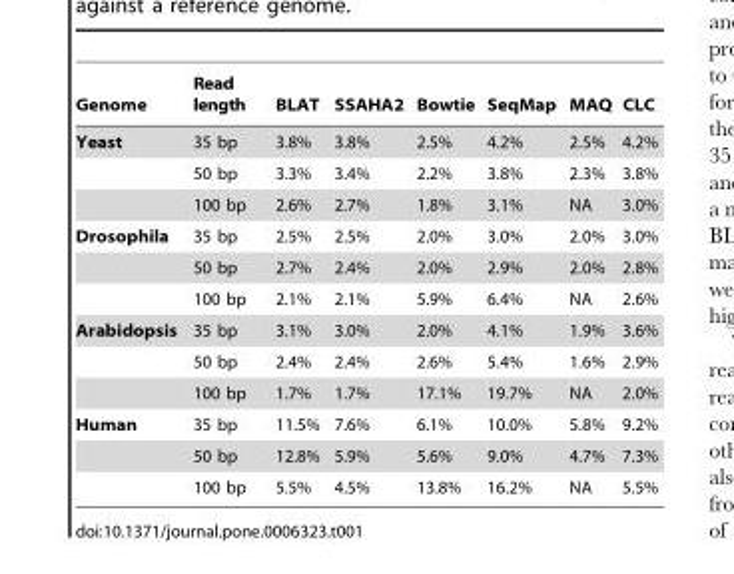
<table><thead><tr><td>Genome</td><td>Read length</td><td>BLAT</td><td>SSAHA2</td><td>Bowtie</td><td>SeqMap</td><td>MAQ</td><td>CLC</td></tr></thead><tbody><tr><td rowspan="3">Yeast</td><td>35 bp</td><td>3.8%</td><td>3.8%</td><td>2.5%</td><td>4.2%</td><td>2.5%</td><td>4.2%</td></tr><tr><td>50 bp</td><td>3.3%</td><td>3.4%</td><td>2.2%</td><td>3.8%</td><td>2.3%</td><td>3.8%</td></tr><tr><td>100 bp</td><td>2.6%</td><td>2.7%</td><td>1.8%</td><td>3.1%</td><td>NA</td><td>3.0%</td></tr><tr><td rowspan="3">Drosophila</td><td>35 bp</td><td>2.5%</td><td>2.5%</td><td>2.0%</td><td>3.0%</td><td>2.0%</td><td>3.0%</td></tr><tr><td>50 bp</td><td>2.7%</td><td>2.4%</td><td>2.0%</td><td>2.9%</td><td>2.0%</td><td>2.8%</td></tr><tr><td>100 bp</td><td>2.1%</td><td>2.1%</td><td>5.9%</td><td>6.4%</td><td>NA</td><td>2.6%</td></tr><tr><td rowspan="3">Arabidopsis</td><td>35 bp</td><td>3.1%</td><td>3.0%</td><td>2.0%</td><td>4.1%</td><td>1.9%</td><td>3.6%</td></tr><tr><td>50 bp</td><td>2.4%</td><td>2.4%</td><td>2.6%</td><td>5.4%</td><td>1.6%</td><td>2.9%</td></tr><tr><td>100 bp</td><td>1.7%</td><td>1.7%</td><td>17.1%</td><td>19.7%</td><td>NA</td><td>2.0%</td></tr><tr><td rowspan="3">Human</td><td>35 bp</td><td>11.5%</td><td>7.6%</td><td>6.1%</td><td>10.0%</td><td>5.8%</td><td>9.2%</td></tr><tr><td>50 bp</td><td>12.8%</td><td>5.9%</td><td>5.6%</td><td>9.0%</td><td>4.7%</td><td>7.3%</td></tr><tr><td>100 bp</td><td>5.5%</td><td>4.5%</td><td>13.8%</td><td>16.2%</td><td>NA</td><td>5.5%</td></tr></tbody></table>